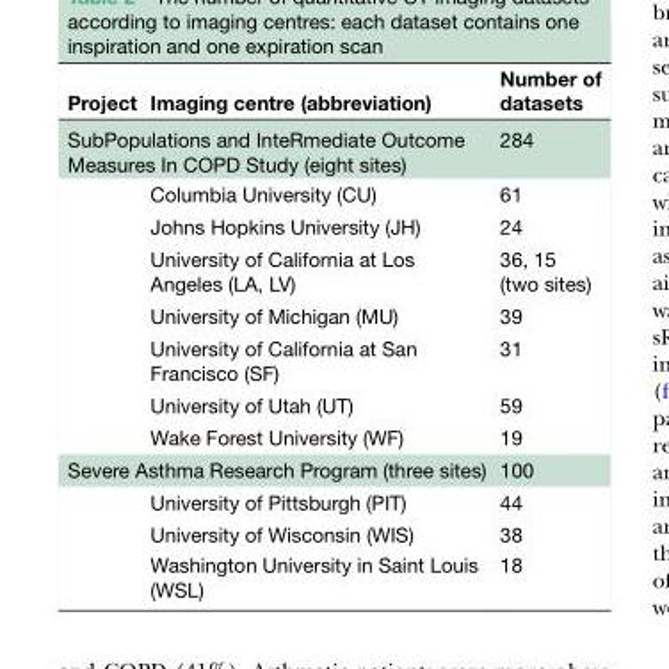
<table><thead><tr><td>Project</td><td>Imaging centre (abbreviation)</td><td>Number of datasets</td></tr></thead><tbody><tr><td colspan="2">SubPopulations and InteRmediate Outcome Measures In COPD Study (eight sites)</td><td>284</td></tr><tr><td rowspan="7"></td><td>Columbia University (CU)</td><td>61</td></tr><tr><td>Johns Hopkins University (JH)</td><td>24</td></tr><tr><td>University of California at Los Angeles (LA, LV)</td><td>36, 15 (two sites)</td></tr><tr><td>University of Michigan (MU)</td><td>39</td></tr><tr><td>University of California at San Francisco (SF)</td><td>31</td></tr><tr><td>University of Utah (UT)</td><td>59</td></tr><tr><td>Wake Forest University (WF)</td><td>19</td></tr><tr><td colspan="2">Severe Asthma Research Program (three sites)</td><td>100</td></tr><tr><td rowspan="3"></td><td>University of Pittsburgh (PIT)</td><td>44</td></tr><tr><td>University of Wisconsin (WIS)</td><td>38</td></tr><tr><td>Washington University in Saint Louis (WSL)</td><td>18</td></tr></tbody></table>